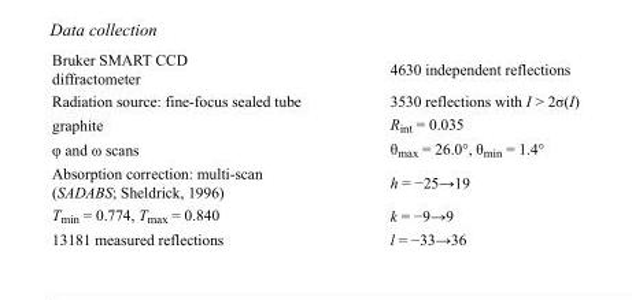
<table><tbody><tr><td>Bruker SMART CCD diffractometer</td><td>4630 independent reflections</td></tr><tr><td>Radiation source: fine-focus sealed tube</td><td>3530 reflections with I &gt; 2σ(I)</td></tr><tr><td>graphite</td><td>R<sub>int</sub> = 0.035</td></tr><tr><td>φ and ω scans</td><td>θ<sub>max</sub> = 26.0°, θ<sub>min</sub> = 1.4°</td></tr><tr><td>Absorption correction: multi-scan (SADABS; Sheldrick, 1996)</td><td>h = −25→19</td></tr><tr><td>T<sub>min</sub> = 0.774, T<sub>max</sub> = 0.840</td><td>k = −9→9</td></tr><tr><td>13181 measured reflections</td><td>l = −33→36</td></tr></tbody></table>